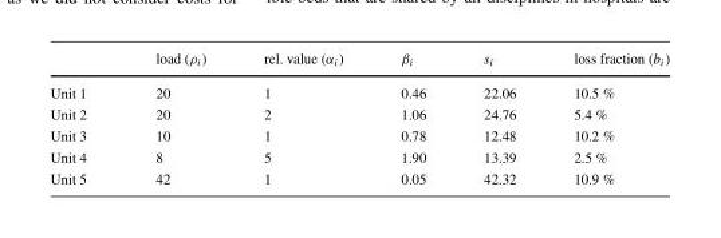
<table><thead><tr><td></td><td>load (ρ<sub>i</sub>)</td><td>rel. value (α<sub>i</sub>)</td><td>β<sub>i</sub></td><td>s<sub>i</sub></td><td>loss fraction (b<sub>i</sub>)</td></tr></thead><tbody><tr><td>Unit 1</td><td>20</td><td>1</td><td>0.46</td><td>22.06</td><td>10.5 %</td></tr><tr><td>Unit 2</td><td>20</td><td>2</td><td>1.06</td><td>24.76</td><td>5.4 %</td></tr><tr><td>Unit 3</td><td>10</td><td>1</td><td>0.78</td><td>12.48</td><td>10.2 %</td></tr><tr><td>Unit 4</td><td>8</td><td>5</td><td>1.90</td><td>13.39</td><td>2.5 %</td></tr><tr><td>Unit 5</td><td>42</td><td>1</td><td>0.05</td><td>42.32</td><td>10.9 %</td></tr></tbody></table>